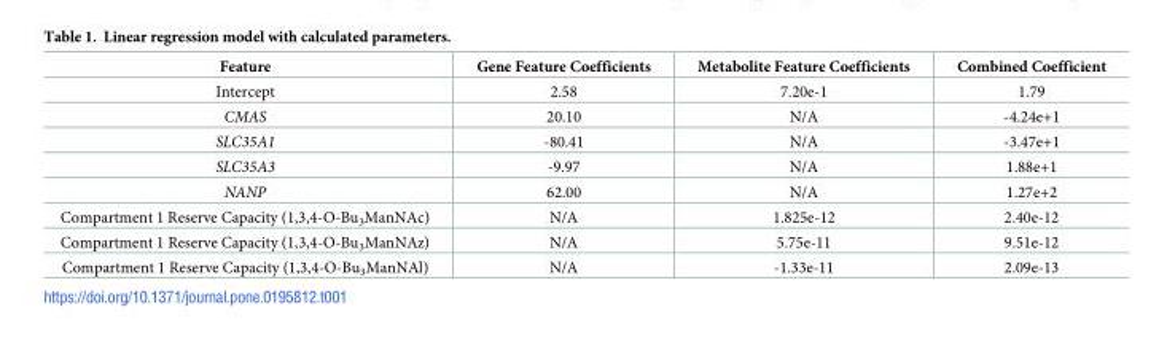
<table><thead><tr><td>Feature</td><td>Gene Feature Coefficients</td><td>Metabolite Feature Coefficients</td><td>Combined Coefficient</td></tr></thead><tbody><tr><td>Intercept</td><td>2.58</td><td>7.20e-1</td><td>1.79</td></tr><tr><td>CMAS</td><td>20.10</td><td>N/A</td><td>-4.24e+1</td></tr><tr><td>SLC35A1</td><td>-80.41</td><td>N/A</td><td>-3.47e+1</td></tr><tr><td>SLC35A3</td><td>-9.97</td><td>N/A</td><td>1.88e+1</td></tr><tr><td>NANP</td><td>62.00</td><td>N/A</td><td>1.27e+2</td></tr><tr><td>Compartment 1 Reserve Capacity (1,3,4-O-Bu<sub>3</sub>ManNAc)</td><td>N/A</td><td>1.825e-12</td><td>2.40e-12</td></tr><tr><td>Compartment 1 Reserve Capacity (1,3,4-O-Bu<sub>3</sub>ManNAz)</td><td>N/A</td><td>5.75e-11</td><td>9.51e-12</td></tr><tr><td>Compartment 1 Reserve Capacity (1,3,4-O-Bu<sub>3</sub>ManNAl)</td><td>N/A</td><td>-1.33e-11</td><td>2.09e-13</td></tr></tbody></table>